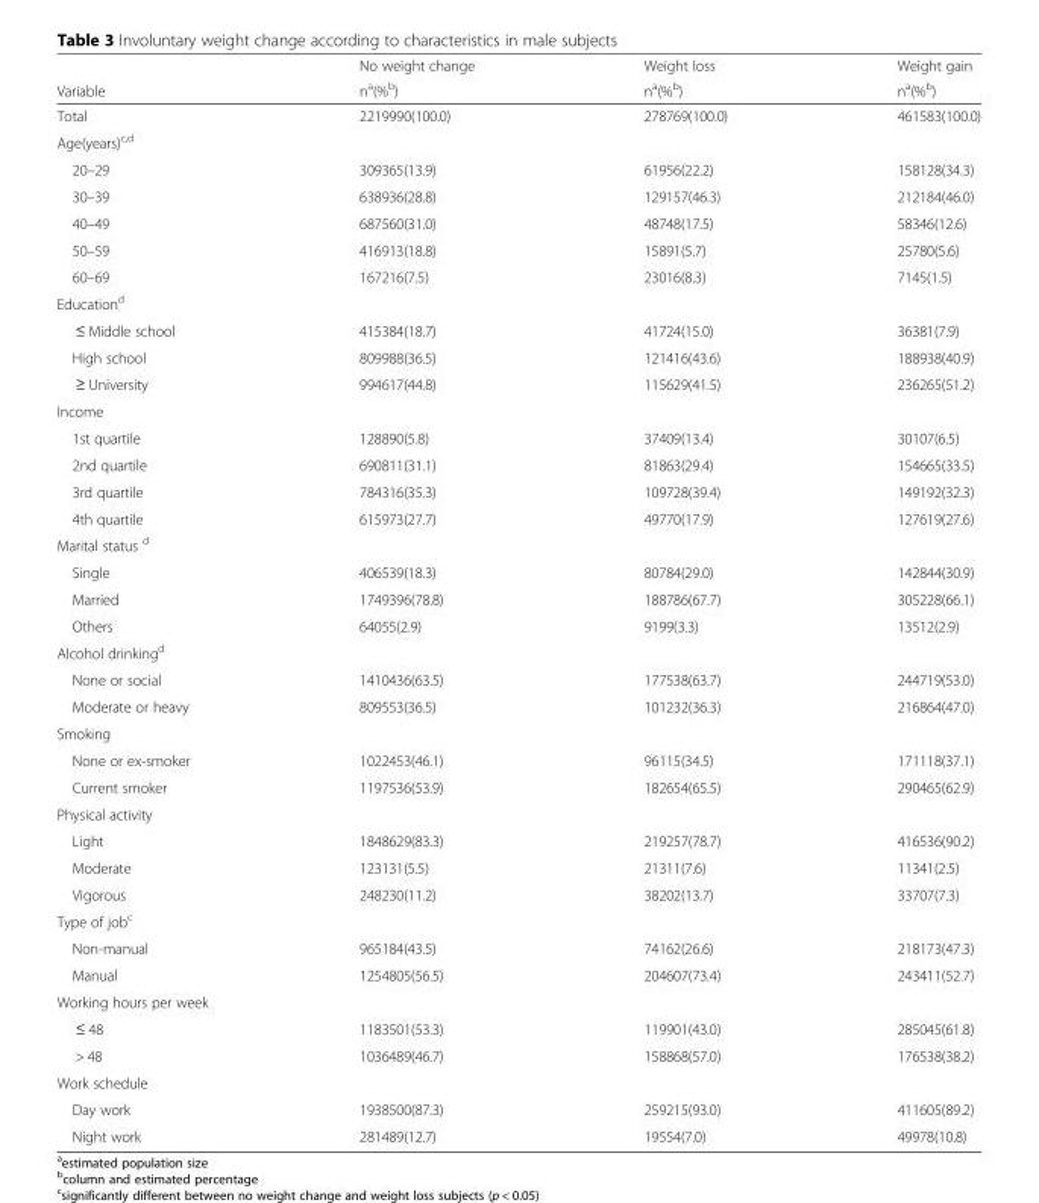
<table><thead><tr><td rowspan="2">Variable</td><td rowspan="2">No weight change n<sup>a</sup>(%<sup>b</sup>)</td><td rowspan="2">Weight loss n<sup>a</sup>(%<sup>b</sup>)</td><td rowspan="2">Weight gain n<sup>a</sup>(%<sup>b</sup>)</td></tr><tr></tr></thead><tbody><tr><td>Total</td><td>2219990(100.0)</td><td>278769(100.0)</td><td>461583(100.0)</td></tr><tr><td colspan="4">Age(years)<sup>c,d</sup></td></tr><tr><td>20–29</td><td>309365(13.9)</td><td>61956(22.2)</td><td>158128(34.3)</td></tr><tr><td>30–39</td><td>638936(28.8)</td><td>129157(46.3)</td><td>212184(46.0)</td></tr><tr><td>40–49</td><td>687560(31.0)</td><td>48748(17.5)</td><td>58346(12.6)</td></tr><tr><td>50–59</td><td>416913(18.8)</td><td>15891(5.7)</td><td>25780(5.6)</td></tr><tr><td>60–69</td><td>167216(7.5)</td><td>23016(8.3)</td><td>7145(1.5)</td></tr><tr><td colspan="4">Education<sup>d</sup></td></tr><tr><td>≤ Middle school</td><td>415384(18.7)</td><td>41724(15.0)</td><td>36381(7.9)</td></tr><tr><td>High school</td><td>809988(36.5)</td><td>121416(43.6)</td><td>188938(40.9)</td></tr><tr><td>≥ University</td><td>994617(44.8)</td><td>115629(41.5)</td><td>236265(51.2)</td></tr><tr><td colspan="4">Income</td></tr><tr><td>1st quartile</td><td>128890(5.8)</td><td>37409(13.4)</td><td>30107(6.5)</td></tr><tr><td>2nd quartile</td><td>690811(31.1)</td><td>81863(29.4)</td><td>154665(33.5)</td></tr><tr><td>3rd quartile</td><td>784316(35.3)</td><td>109728(39.4)</td><td>149192(32.3)</td></tr><tr><td>4th quartile</td><td>615973(27.7)</td><td>49770(17.9)</td><td>127619(27.6)</td></tr><tr><td colspan="4">Marital status <sup>d</sup></td></tr><tr><td>Single</td><td>406539(18.3)</td><td>80784(29.0)</td><td>142844(30.9)</td></tr><tr><td>Married</td><td>1749396(78.8)</td><td>188786(67.7)</td><td>305228(66.1)</td></tr><tr><td>Others</td><td>64055(2.9)</td><td>9199(3.3)</td><td>13512(2.9)</td></tr><tr><td colspan="4">Alcohol drinking<sup>d</sup></td></tr><tr><td>None or social</td><td>1410436(63.5)</td><td>177538(63.7)</td><td>244719(53.0)</td></tr><tr><td>Moderate or heavy</td><td>809553(36.5)</td><td>101232(36.3)</td><td>216864(47.0)</td></tr><tr><td colspan="4">Smoking</td></tr><tr><td>None or ex-smoker</td><td>1022453(46.1)</td><td>96115(34.5)</td><td>171118(37.1)</td></tr><tr><td>Current smoker</td><td>1197536(53.9)</td><td>182654(65.5)</td><td>290465(62.9)</td></tr><tr><td colspan="4">Physical activity</td></tr><tr><td>Light</td><td>1848629(83.3)</td><td>219257(78.7)</td><td>416536(90.2)</td></tr><tr><td>Moderate</td><td>123131(5.5)</td><td>21311(7.6)</td><td>11341(2.5)</td></tr><tr><td>Vigorous</td><td>248230(11.2)</td><td>38202(13.7)</td><td>33707(7.3)</td></tr><tr><td colspan="4">Type of job<sup>c</sup></td></tr><tr><td>Non-manual</td><td>965184(43.5)</td><td>74162(26.6)</td><td>218173(47.3)</td></tr><tr><td>Manual</td><td>1254805(56.5)</td><td>204607(73.4)</td><td>243411(52.7)</td></tr><tr><td colspan="4">Working hours per week</td></tr><tr><td>≤ 48</td><td>1183501(53.3)</td><td>119901(43.0)</td><td>285045(61.8)</td></tr><tr><td>&gt; 48</td><td>1036489(46.7)</td><td>158868(57.0)</td><td>176538(38.2)</td></tr><tr><td colspan="4">Work schedule</td></tr><tr><td>Day work</td><td>1938500(87.3)</td><td>259215(93.0)</td><td>411605(89.2)</td></tr><tr><td>Night work</td><td>281489(12.7)</td><td>19554(7.0)</td><td>49978(10.8)</td></tr></tbody></table>